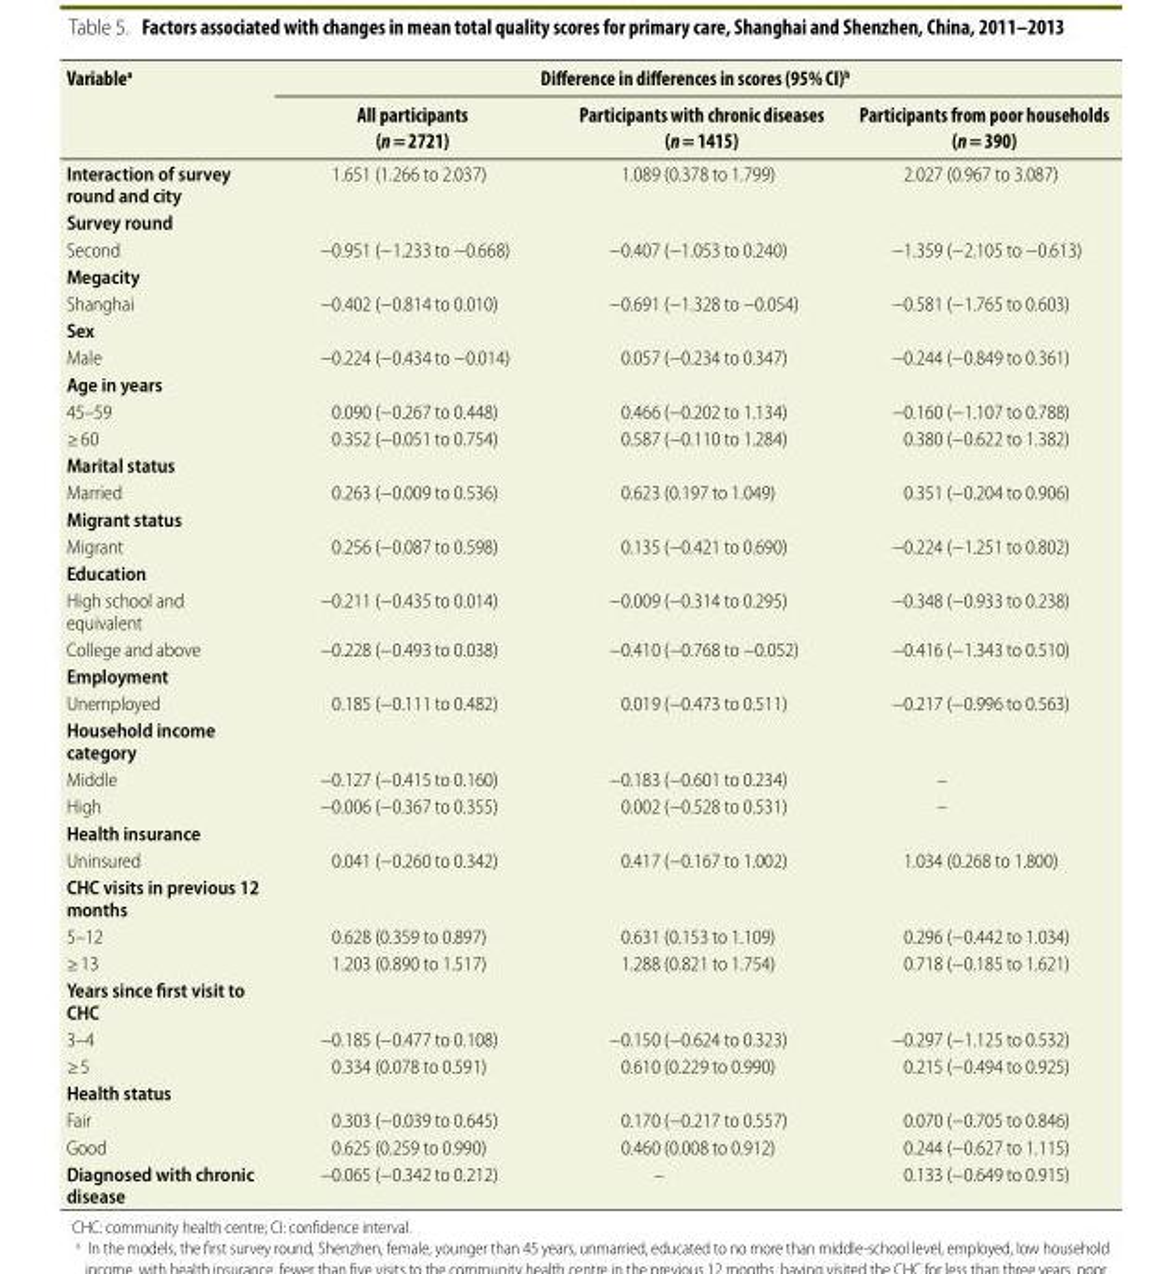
<table><thead><tr><td rowspan="2">Variable<sup>a</sup></td><td colspan="3">Difference in differences in scores (95% CI)<sup>b</sup></td></tr><tr><td>All participants (n = 2721)</td><td>Participants with chronic diseases (n = 1415)</td><td>Participants from poor households (n = 390)</td></tr></thead><tbody><tr><td>Interaction of survey round and city</td><td>1.651 (1.266 to 2.037)</td><td>1.089 (0.378 to 1.799)</td><td>2.027 (0.967 to 3.087)</td></tr><tr><td colspan="4">Survey round</td></tr><tr><td>Second</td><td>−0.951 (−1.233 to −0.668)</td><td>−0.407 (−1.053 to 0.240)</td><td>−1.359 (−2.105 to −0.613)</td></tr><tr><td colspan="4">Megacity</td></tr><tr><td>Shanghai</td><td>−0.402 (−0.814 to 0.010)</td><td>−0.691 (−1.328 to −0.054)</td><td>−0.581 (−1.765 to 0.603)</td></tr><tr><td colspan="4">Sex</td></tr><tr><td>Male</td><td>−0.224 (−0.434 to −0.014)</td><td>0.057 (−0.234 to 0.347)</td><td>−0.244 (−0.849 to 0.361)</td></tr><tr><td colspan="4">Age in years</td></tr><tr><td>45–59</td><td>0.090 (−0.267 to 0.448)</td><td>0.466 (−0.202 to 1.134)</td><td>−0.160 (−1.107 to 0.788)</td></tr><tr><td>≥ 60</td><td>0.352 (−0.051 to 0.754)</td><td>0.587 (−0.110 to 1.284)</td><td>0.380 (−0.622 to 1.382)</td></tr><tr><td colspan="4">Marital status</td></tr><tr><td>Married</td><td>0.263 (−0.009 to 0.536)</td><td>0.623 (0.197 to 1.049)</td><td>0.351 (−0.204 to 0.906)</td></tr><tr><td colspan="4">Migrant status</td></tr><tr><td>Migrant</td><td>0.256 (−0.087 to 0.598)</td><td>0.135 (−0.421 to 0.690)</td><td>−0.224 (−1.251 to 0.802)</td></tr><tr><td colspan="4">Education</td></tr><tr><td>High school and equivalent</td><td>−0.211 (−0.435 to 0.014)</td><td>−0.009 (−0.314 to 0.295)</td><td>−0.348 (−0.933 to 0.238)</td></tr><tr><td>College and above</td><td>−0.228 (−0.493 to 0.038)</td><td>−0.410 (−0.768 to −0.052)</td><td>−0.416 (−1.343 to 0.510)</td></tr><tr><td colspan="4">Employment</td></tr><tr><td>Unemployed</td><td>0.185 (−0.111 to 0.482)</td><td>0.019 (−0.473 to 0.511)</td><td>−0.217 (−0.996 to 0.563)</td></tr><tr><td colspan="4">Household income category</td></tr><tr><td>Middle</td><td>−0.127 (−0.415 to 0.160)</td><td>−0.183 (−0.601 to 0.234)</td><td>–</td></tr><tr><td>High</td><td>−0.006 (−0.367 to 0.355)</td><td>0.002 (−0.528 to 0.531)</td><td>–</td></tr><tr><td colspan="4">Health insurance</td></tr><tr><td>Uninsured</td><td>0.041 (−0.260 to 0.342)</td><td>0.417 (−0.167 to 1.002)</td><td>1.034 (0.268 to 1.800)</td></tr><tr><td colspan="4">CHC visits in previous 12 months</td></tr><tr><td>5–12</td><td>0.628 (0.359 to 0.897)</td><td>0.631 (0.153 to 1.109)</td><td>0.296 (−0.442 to 1.034)</td></tr><tr><td>≥ 13</td><td>1.203 (0.890 to 1.517)</td><td>1.288 (0.821 to 1.754)</td><td>0.718 (−0.185 to 1.621)</td></tr><tr><td colspan="4">Years since first visit to CHC</td></tr><tr><td>3–4</td><td>−0.185 (−0.477 to 0.108)</td><td>−0.150 (−0.624 to 0.323)</td><td>−0.297 (−1.125 to 0.532)</td></tr><tr><td>≥ 5</td><td>0.334 (0.078 to 0.591)</td><td>0.610 (0.229 to 0.990)</td><td>0.215 (−0.494 to 0.925)</td></tr><tr><td colspan="4">Health status</td></tr><tr><td>Fair</td><td>0.303 (−0.039 to 0.645)</td><td>0.170 (−0.217 to 0.557)</td><td>0.070 (−0.705 to 0.846)</td></tr><tr><td>Good</td><td>0.625 (0.259 to 0.990)</td><td>0.460 (0.008 to 0.912)</td><td>0.244 (−0.627 to 1.115)</td></tr><tr><td>Diagnosed with chronic disease</td><td>−0.065 (−0.342 to 0.212)</td><td>–</td><td>0.133 (−0.649 to 0.915)</td></tr></tbody></table>